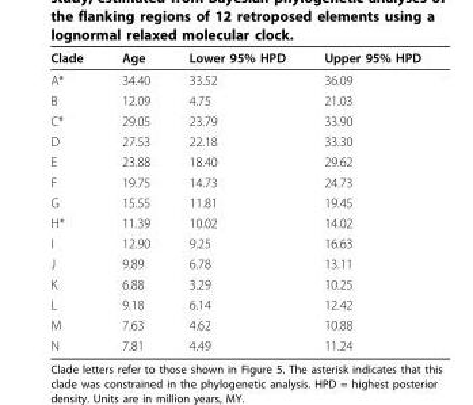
<table><thead><tr><td>Clade</td><td>Age</td><td>Lower 95% HPD</td><td>Upper 95% HPD</td></tr></thead><tbody><tr><td>A*</td><td>34.40</td><td>33.52</td><td>36.09</td></tr><tr><td>B</td><td>12.09</td><td>4.75</td><td>21.03</td></tr><tr><td>C*</td><td>29.05</td><td>23.79</td><td>33.90</td></tr><tr><td>D</td><td>27.53</td><td>22.18</td><td>33.30</td></tr><tr><td>E</td><td>23.88</td><td>18.40</td><td>29.62</td></tr><tr><td>F</td><td>19.75</td><td>14.73</td><td>24.73</td></tr><tr><td>G</td><td>15.55</td><td>11.81</td><td>19.45</td></tr><tr><td>H*</td><td>11.39</td><td>10.02</td><td>14.02</td></tr><tr><td>I</td><td>12.90</td><td>9.25</td><td>16.63</td></tr><tr><td>J</td><td>9.89</td><td>6.78</td><td>13.11</td></tr><tr><td>K</td><td>6.88</td><td>3.29</td><td>10.25</td></tr><tr><td>L</td><td>9.18</td><td>6.14</td><td>12.42</td></tr><tr><td>M</td><td>7.63</td><td>4.62</td><td>10.88</td></tr><tr><td>N</td><td>7.81</td><td>4.49</td><td>11.24</td></tr></tbody></table>